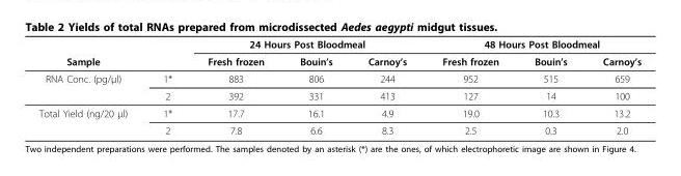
<table><thead><tr><td rowspan="2">Sample</td><td rowspan="2"></td><td colspan="3">24 Hours Post Bloodmeal</td><td colspan="3">48 Hours Post Bloodmeal</td></tr><tr><td>Fresh frozen</td><td>Bouin’s</td><td>Carnoy’s</td><td>Fresh frozen</td><td>Bouin’s</td><td>Carnoy’s</td></tr></thead><tbody><tr><td rowspan="2">RNA Conc. (pg/μl)</td><td>1*</td><td>883</td><td>806</td><td>244</td><td>952</td><td>515</td><td>659</td></tr><tr><td>2</td><td>392</td><td>331</td><td>413</td><td>127</td><td>14</td><td>100</td></tr><tr><td rowspan="2">Total Yield (ng/20 μl)</td><td>1*</td><td>17.7</td><td>16.1</td><td>4.9</td><td>19.0</td><td>10.3</td><td>13.2</td></tr><tr><td>2</td><td>7.8</td><td>6.6</td><td>8.3</td><td>2.5</td><td>0.3</td><td>2.0</td></tr></tbody></table>